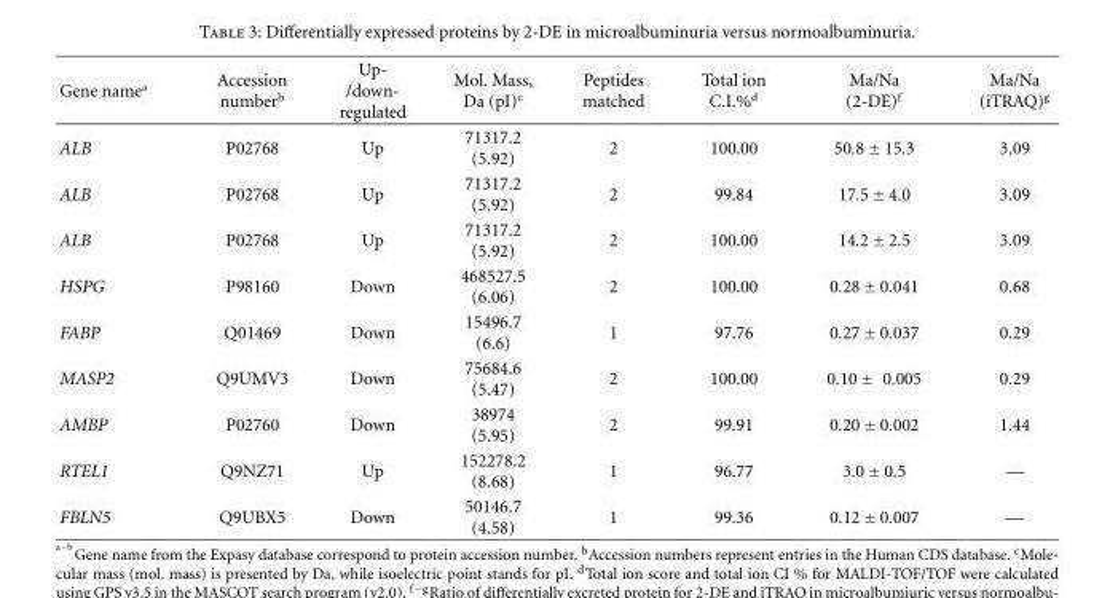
<table><thead><tr><td>Gene name<sup>a</sup></td><td>Accession number<sup>b</sup></td><td>Up- /down- regulated</td><td>Mol. Mass, Da (pI)<sup>c</sup></td><td>Peptides matched</td><td>Total ion C.I.%<sup>d</sup></td><td>Ma/Na (2-DE)<sup>f</sup></td><td>Ma/Na (iTRAQ)<sup>g</sup></td></tr></thead><tbody><tr><td>ALB</td><td>P02768</td><td>Up</td><td>71317.2 (5.92)</td><td>2</td><td>100.00</td><td>50.8 ± 15.3</td><td>3.09</td></tr><tr><td>ALB</td><td>P02768</td><td>Up</td><td>71317.2 (5.92)</td><td>2</td><td>99.84</td><td>17.5 ± 4.0</td><td>3.09</td></tr><tr><td>ALB</td><td>P02768</td><td>Up</td><td>71317.2 (5.92)</td><td>2</td><td>100.00</td><td>14.2 ± 2.5</td><td>3.09</td></tr><tr><td>HSPG</td><td>P98160</td><td>Down</td><td>468527.5 (6.06)</td><td>2</td><td>100.00</td><td>0.28 ± 0.041</td><td>0.68</td></tr><tr><td>FABP</td><td>Q01469</td><td>Down</td><td>15496.7 (6.6)</td><td>1</td><td>97.76</td><td>0.27 ± 0.037</td><td>0.29</td></tr><tr><td>MASP2</td><td>Q9UMV3</td><td>Down</td><td>75684.6 (5.47)</td><td>2</td><td>100.00</td><td>0.10 ± 0.005</td><td>0.29</td></tr><tr><td>AMBP</td><td>P02760</td><td>Down</td><td>38974 (5.95)</td><td>2</td><td>99.91</td><td>0.20 ± 0.002</td><td>1.44</td></tr><tr><td>RTEL1</td><td>Q9NZ71</td><td>Up</td><td>152278.2 (8.68)</td><td>1</td><td>96.77</td><td>3.0 ± 0.5</td><td>—</td></tr><tr><td>FBLN5</td><td>Q9UBX5</td><td>Down</td><td>50146.7 (4.58)</td><td>1</td><td>99.36</td><td>0.12 ± 0.007</td><td>—</td></tr></tbody></table>